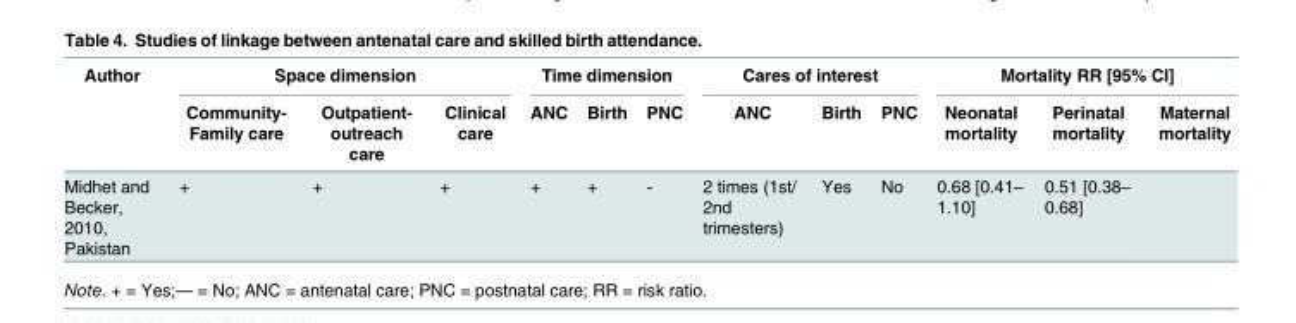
<table><thead><tr><td rowspan="2">Author</td><td colspan="3">Space dimension</td><td colspan="3">Time dimension</td><td colspan="3">Cares of interest</td><td colspan="3">Mortality RR [95% CI]</td></tr><tr><td>Community- Family care</td><td>Outpatient- outreach care</td><td>Clinical care</td><td>ANC</td><td>Birth</td><td>PNC</td><td>ANC</td><td>Birth</td><td>PNC</td><td>Neonatal mortality</td><td>Perinatal mortality</td><td>Maternal mortality</td></tr></thead><tbody><tr><td>Midhet and Becker, 2010, Pakistan</td><td>+</td><td>+</td><td>+</td><td>+</td><td>+</td><td>-</td><td>2 times (1st/ 2nd trimesters)</td><td>Yes</td><td>No</td><td>0.68 [0.41– 1.10]</td><td>0.51 [0.38– 0.68]</td><td></td></tr></tbody></table>